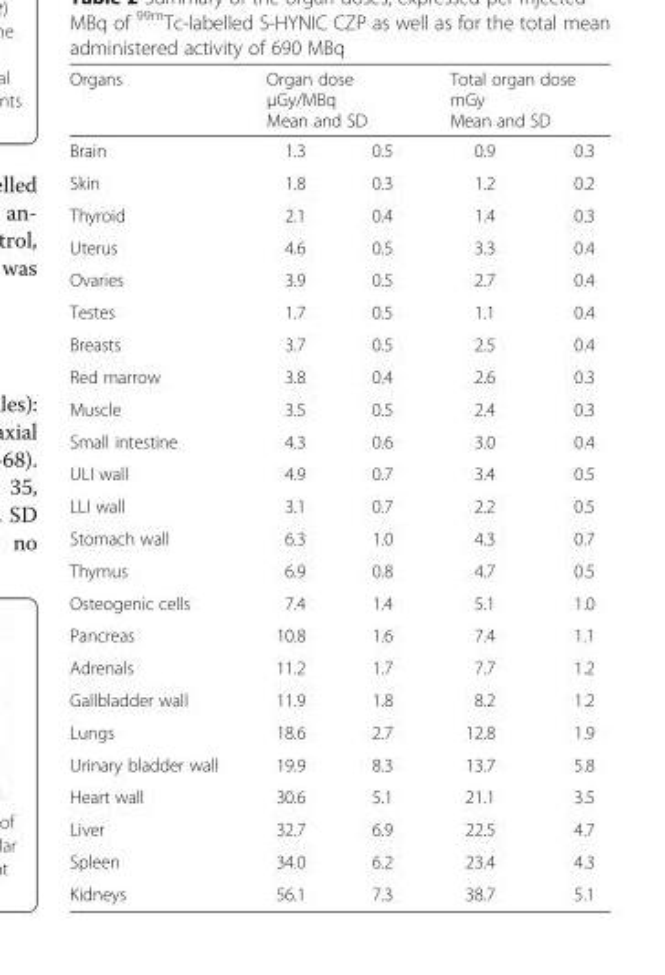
<table><thead><tr><td rowspan="2">Organs Brain</td><td colspan="2">Organ dose μGy/MBq Mean and SD</td><td colspan="2">Total organ dose mGy Mean and SD</td></tr><tr><td>1.3</td><td>0.5</td><td>0.9</td><td>0.3</td></tr></thead><tbody><tr><td>Skin</td><td>1.8</td><td>0.3</td><td>1.2</td><td>0.2</td></tr><tr><td>Thyroid</td><td>2.1</td><td>0.4</td><td>1.4</td><td>0.3</td></tr><tr><td>Uterus</td><td>4.6</td><td>0.5</td><td>3.3</td><td>0.4</td></tr><tr><td>Ovaries</td><td>3.9</td><td>0.5</td><td>2.7</td><td>0.4</td></tr><tr><td>Testes</td><td>1.7</td><td>0.5</td><td>1.1</td><td>0.4</td></tr><tr><td>Breasts</td><td>3.7</td><td>0.5</td><td>2.5</td><td>0.4</td></tr><tr><td>Red marrow</td><td>3.8</td><td>0.4</td><td>2.6</td><td>0.3</td></tr><tr><td>Muscle</td><td>3.5</td><td>0.5</td><td>2.4</td><td>0.3</td></tr><tr><td>Small intestine</td><td>4.3</td><td>0.6</td><td>3.0</td><td>0.4</td></tr><tr><td>ULI wall</td><td>4.9</td><td>0.7</td><td>3.4</td><td>0.5</td></tr><tr><td>LLI wall</td><td>3.1</td><td>0.7</td><td>2.2</td><td>0.5</td></tr><tr><td>Stomach wall</td><td>6.3</td><td>1.0</td><td>4.3</td><td>0.7</td></tr><tr><td>Thymus</td><td>6.9</td><td>0.8</td><td>4.7</td><td>0.5</td></tr><tr><td>Osteogenic cells</td><td>7.4</td><td>1.4</td><td>5.1</td><td>1.0</td></tr><tr><td>Pancreas</td><td>10.8</td><td>1.6</td><td>7.4</td><td>1.1</td></tr><tr><td>Adrenals</td><td>11.2</td><td>1.7</td><td>7.7</td><td>1.2</td></tr><tr><td>Gallbladder wall</td><td>11.9</td><td>1.8</td><td>8.2</td><td>1.2</td></tr><tr><td>Lungs</td><td>18.6</td><td>2.7</td><td>12.8</td><td>1.9</td></tr><tr><td>Urinary bladder wall</td><td>19.9</td><td>8.3</td><td>13.7</td><td>5.8</td></tr><tr><td>Heart wall</td><td>30.6</td><td>5.1</td><td>21.1</td><td>3.5</td></tr><tr><td>Liver</td><td>32.7</td><td>6.9</td><td>22.5</td><td>4.7</td></tr><tr><td>Spleen</td><td>34.0</td><td>6.2</td><td>23.4</td><td>4.3</td></tr><tr><td>Kidneys</td><td>56.1</td><td>7.3</td><td>38.7</td><td>5.1</td></tr></tbody></table>